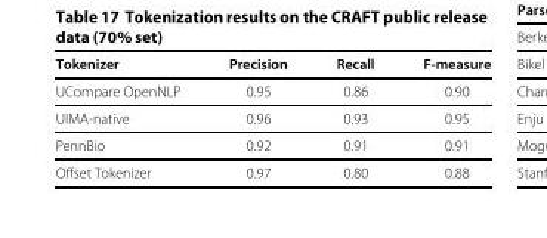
<table><thead><tr><td>Tokenizer</td><td>Precision</td><td>Recall</td><td>F-measure</td></tr></thead><tbody><tr><td>UCompare OpenNLP</td><td>0.95</td><td>0.86</td><td>0.90</td></tr><tr><td>UIMA-native</td><td>0.96</td><td>0.93</td><td>0.95</td></tr><tr><td>PennBio</td><td>0.92</td><td>0.91</td><td>0.91</td></tr><tr><td>Offset Tokenizer</td><td>0.97</td><td>0.80</td><td>0.88</td></tr></tbody></table>